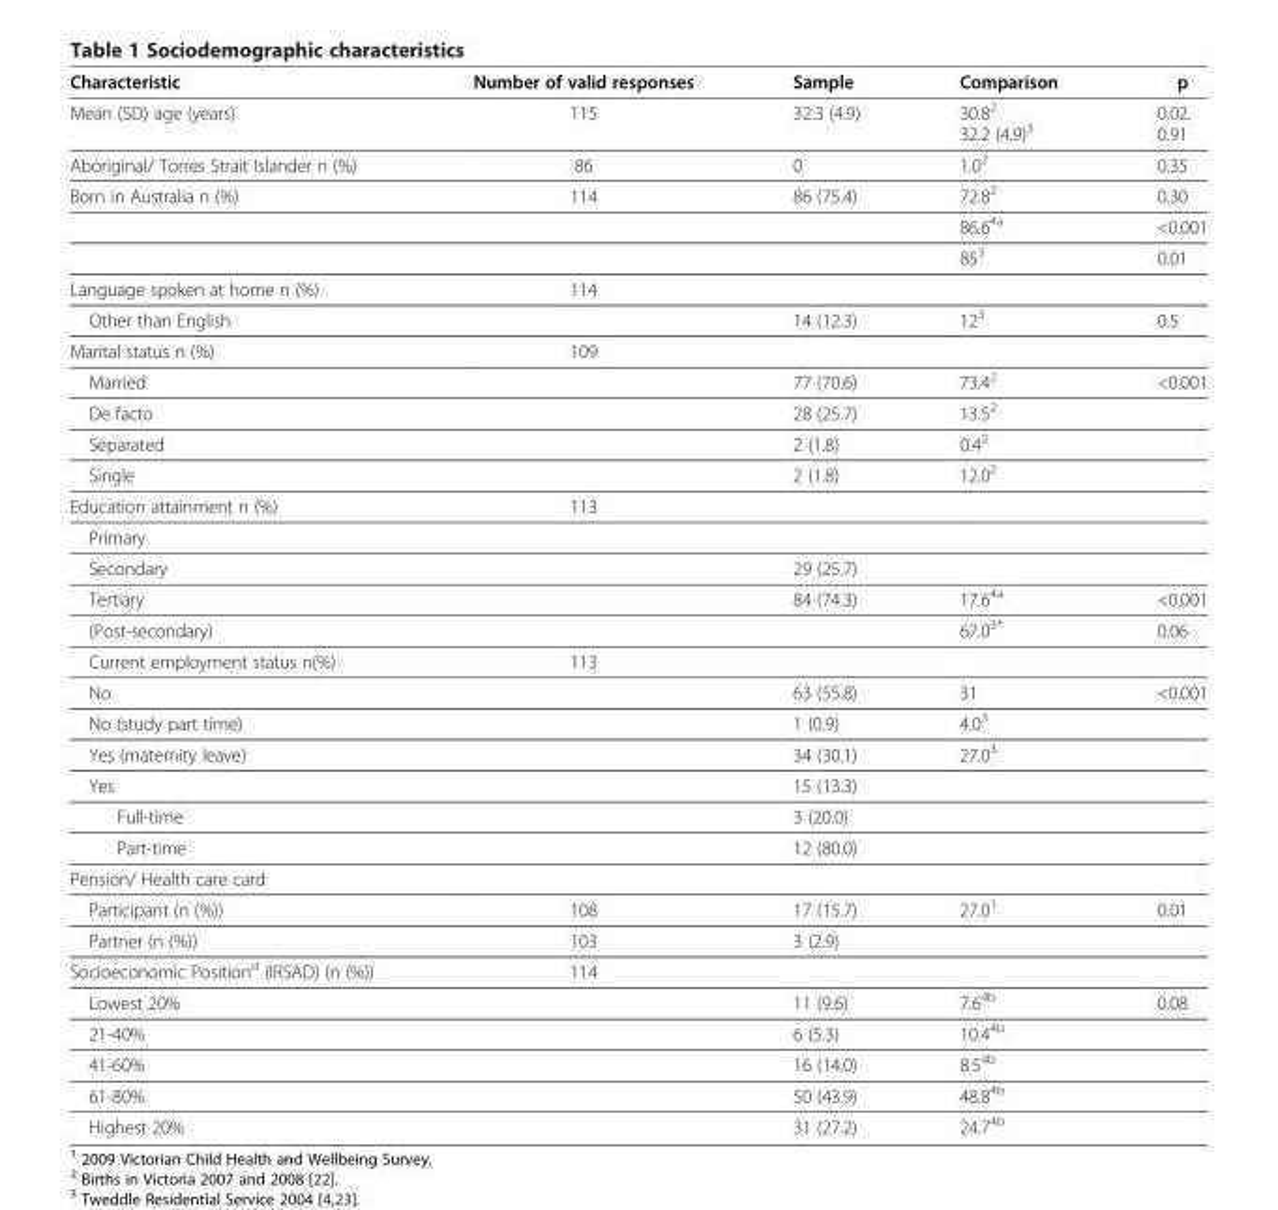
<table><thead><tr><td>Characteristic</td><td>Number of valid responses</td><td>Sample</td><td>Comparison</td><td>p</td></tr></thead><tbody><tr><td>Mean (SD) age (years)</td><td>115</td><td>32.3 (4.9)</td><td>30.8<sup>2</sup> 32.2 (4.9)<sup>3</sup></td><td>0.02. 0.91</td></tr><tr><td>Aboriginal/ Torres Strait Islander n (%)</td><td>86</td><td>0</td><td>1.0<sup>2</sup></td><td>0.35</td></tr><tr><td rowspan="3">Born in Australia n (%)</td><td>114</td><td>86 (75.4)</td><td>72.8<sup>2</sup></td><td>0.30</td></tr><tr><td></td><td></td><td>86.6<sup>4a</sup></td><td>&lt;0.001</td></tr><tr><td></td><td></td><td>85<sup>3</sup></td><td>0.01</td></tr><tr><td>Language spoken at home n (%)</td><td>114</td><td></td><td></td><td></td></tr><tr><td>Other than English</td><td></td><td>14 (12.3)</td><td>12<sup>3</sup></td><td>0.5</td></tr><tr><td>Marital status n (%)</td><td>109</td><td></td><td></td><td></td></tr><tr><td>Married</td><td></td><td>77 (70.6)</td><td>73.4<sup>2</sup></td><td>&lt;0.001</td></tr><tr><td>De facto</td><td></td><td>28 (25.7)</td><td>13.5<sup>2</sup></td><td></td></tr><tr><td>Separated</td><td></td><td>2 (1.8)</td><td>0.4<sup>2</sup></td><td></td></tr><tr><td>Single</td><td></td><td>2 (1.8)</td><td>12.0<sup>2</sup></td><td></td></tr><tr><td>Education attainment n (%)</td><td>113</td><td></td><td></td><td></td></tr><tr><td colspan="5">Primary</td></tr><tr><td>Secondary</td><td></td><td>29 (25.7)</td><td></td><td></td></tr><tr><td>Tertiary</td><td></td><td>84 (74.3)</td><td>17.6<sup>4a</sup></td><td>&lt;0.001</td></tr><tr><td>(Post-secondary)</td><td></td><td></td><td>67.0<sup>3*</sup></td><td>0.06</td></tr><tr><td>Current employment status n(%)</td><td>113</td><td></td><td></td><td></td></tr><tr><td>No</td><td></td><td>63 (55.8)</td><td>31</td><td>&lt;0.001</td></tr><tr><td>No (study part time)</td><td></td><td>1 (0.9)</td><td>4.0<sup>3</sup></td><td></td></tr><tr><td>Yes (maternity leave)</td><td></td><td>34 (30.1)</td><td>27.0<sup>3</sup></td><td></td></tr><tr><td>Yes</td><td></td><td>15 (13.3)</td><td></td><td></td></tr><tr><td>Full-time</td><td></td><td>3 (20.0)</td><td></td><td></td></tr><tr><td>Part-time</td><td></td><td>12 (80.0)</td><td></td><td></td></tr><tr><td colspan="5">Pension/ Health care card</td></tr><tr><td>Participant (n (%))</td><td>108</td><td>17 (15.7)</td><td>27.0<sup>1</sup></td><td>0.01</td></tr><tr><td>Partner (n (%))</td><td>103</td><td>3 (2.9)</td><td></td><td></td></tr><tr><td>Socioeconomic Position<sup>d</sup> (IRSAD) (n (%))</td><td>114</td><td></td><td></td><td></td></tr><tr><td>Lowest 20%</td><td></td><td>11 (9.6)</td><td>7.6<sup>4b</sup></td><td>0.08</td></tr><tr><td>21-40%</td><td></td><td>6 (5.3)</td><td>10.4<sup>4b</sup></td><td></td></tr><tr><td>41-60%</td><td></td><td>16 (14.0)</td><td>8.5<sup>4b</sup></td><td></td></tr><tr><td>61-80%</td><td></td><td>50 (43.9)</td><td>48.8<sup>4b</sup></td><td></td></tr><tr><td>Highest 20%</td><td></td><td>31 (27.2)</td><td>24.7<sup>4b</sup></td><td></td></tr></tbody></table>